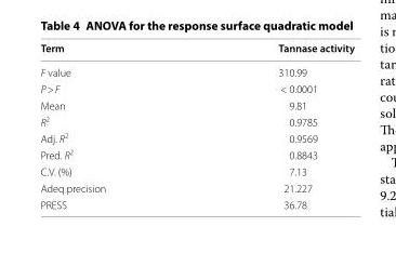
<table><thead><tr><td>Term</td><td>Tannase activity</td></tr></thead><tbody><tr><td>F value</td><td>310.99</td></tr><tr><td>P &gt; F</td><td>&lt; 0.0001</td></tr><tr><td>Mean</td><td>9.81</td></tr><tr><td>R<sup>2</sup></td><td>0.9785</td></tr><tr><td>Adj. R<sup>2</sup></td><td>0.9569</td></tr><tr><td>Pred. R<sup>2</sup></td><td>0.8843</td></tr><tr><td>C.V. (%)</td><td>7.13</td></tr><tr><td>Adeq precision</td><td>21.227</td></tr><tr><td>PRESS</td><td>36.78</td></tr></tbody></table>